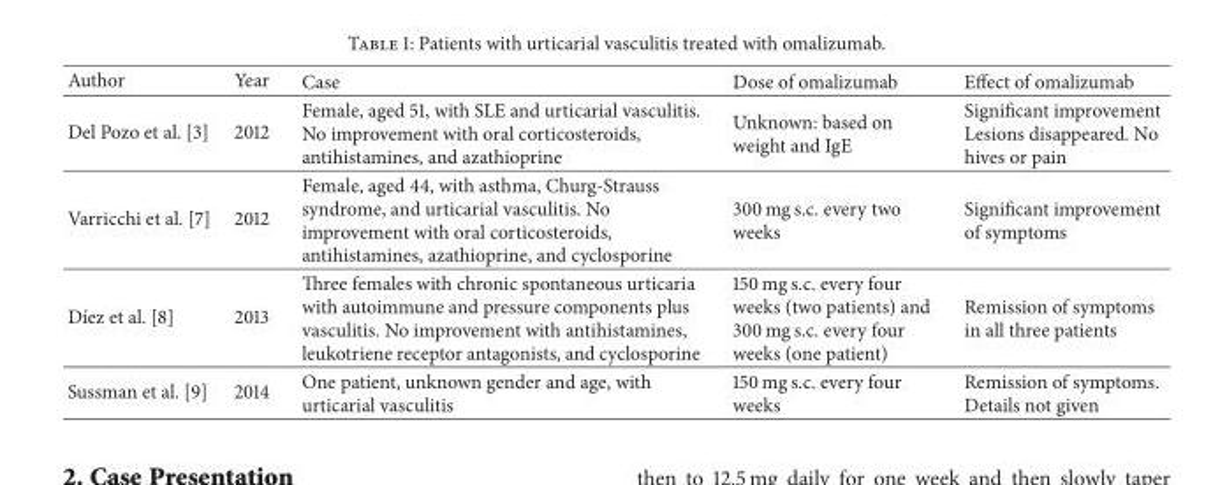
<table><thead><tr><td>Author</td><td>Year</td><td>Case</td><td>Dose of omalizumab</td><td>Effect of omalizumab</td></tr></thead><tbody><tr><td>Del Pozo et al. [3]</td><td>2012</td><td>Female, aged 51, with SLE and urticarial vasculitis. No improvement with oral corticosteroids, antihistamines, and azathioprine</td><td>Unknown: based on weight and IgE</td><td>Significant improvement Lesions disappeared. No hives or pain</td></tr><tr><td>Varricchi et al. [7]</td><td>2012</td><td>Female, aged 44, with asthma, Churg-Strauss syndrome, and urticarial vasculitis. No improvement with oral corticosteroids, antihistamines, azathioprine, and cyclosporine</td><td>300 mg s.c. every two weeks</td><td>Significant improvement of symptoms</td></tr><tr><td>D´ıez et al. [8]</td><td>2013</td><td>Three females with chronic spontaneous urticaria with autoimmune and pressure components plus vasculitis. No improvement with antihistamines, leukotriene receptor antagonists, and cyclosporine</td><td>150 mg s.c. every four weeks (two patients) and 300 mg s.c. every four weeks (one patient)</td><td>Remission of symptoms in all three patients</td></tr><tr><td>Sussman et al. [9]</td><td>2014</td><td>One patient, unknown gender and age, with urticarial vasculitis</td><td>150 mg s.c. every four weeks</td><td>Remission of symptoms. Details not given</td></tr></tbody></table>